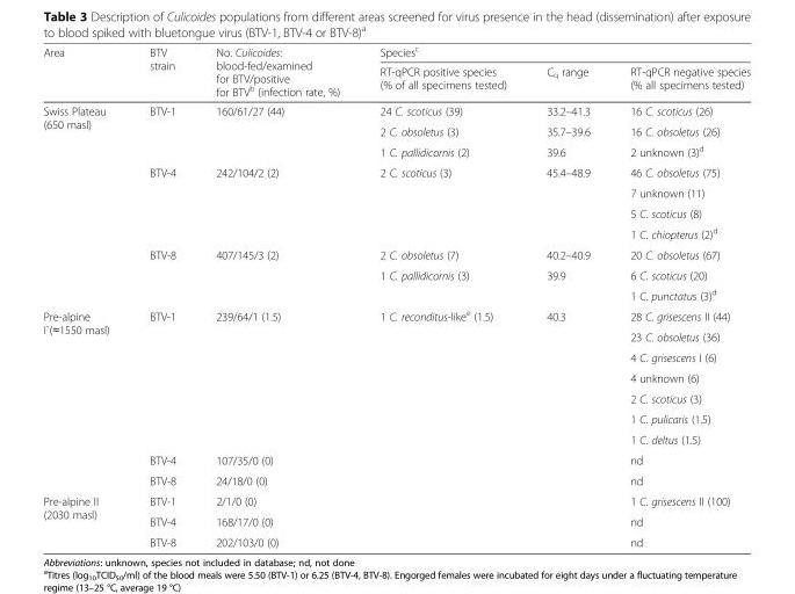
<table><thead><tr><td rowspan="2">Area</td><td rowspan="2">BTV strain</td><td rowspan="2">No. Culicoides: blood-fed/examined for BTV/positive for BTV<sup>b</sup> (infection rate, %)</td><td colspan="3">Species<sup>c</sup></td></tr><tr><td>RT-qPCR positive species (% of all specimens tested)</td><td>C<sub>q</sub> range</td><td>RT-qPCR negative species (% all specimens tested)</td></tr></thead><tbody><tr><td rowspan="10">Swiss Plateau (650 masl)</td><td rowspan="3">BTV-1</td><td rowspan="3">160/61/27 (44)</td><td>24 C. scoticus (39)</td><td>33.2–41.3</td><td>16 C. scoticus (26)</td></tr><tr><td>2 C. obsoletus (3)</td><td>35.7–39.6</td><td>16 C. obsoletus (26)</td></tr><tr><td>1 C. pallidicornis (2)</td><td>39.6</td><td>2 unknown (3)<sup>d</sup></td></tr><tr><td rowspan="4">BTV-4</td><td rowspan="4">242/104/2 (2)</td><td>2 C. scoticus (3)</td><td>45.4–48.9</td><td>46 C. obsoletus (75)</td></tr><tr><td></td><td></td><td>7 unknown (11)</td></tr><tr><td></td><td></td><td>5 C. scoticus (8)</td></tr><tr><td></td><td></td><td>1 C. chiopterus (2)<sup>d</sup></td></tr><tr><td rowspan="3">BTV-8</td><td rowspan="3">407/145/3 (2)</td><td>2 C. obsoletus (7)</td><td>40.2–40.9</td><td>20 C. obsoletus (67)</td></tr><tr><td>1 C. pallidicornis (3)</td><td>39.9</td><td>6 C. scoticus (20)</td></tr><tr><td></td><td></td><td>1 C. punctatus (3)<sup>d</sup></td></tr><tr><td rowspan="9">Pre-alpine I`(≈1550 masl)</td><td rowspan="7">BTV-1</td><td rowspan="7">239/64/1 (1.5)</td><td>1 C. reconditus-like<sup>e</sup> (1.5)</td><td>40.3</td><td>28 C. grisescens II (44)</td></tr><tr><td></td><td></td><td>23 C. obsoletus (36)</td></tr><tr><td></td><td></td><td>4 C. grisescens I (6)</td></tr><tr><td></td><td></td><td>4 unknown (6)</td></tr><tr><td></td><td></td><td>2 C. scoticus (3)</td></tr><tr><td></td><td></td><td>1 C. pulicaris (1.5)</td></tr><tr><td></td><td></td><td>1 C. deltus (1.5)</td></tr><tr><td>BTV-4</td><td>107/35/0 (0)</td><td></td><td></td><td>nd</td></tr><tr><td>BTV-8</td><td>24/18/0 (0)</td><td></td><td></td><td>nd</td></tr><tr><td rowspan="3">Pre-alpine II (2030 masl)</td><td>BTV-1</td><td>2/1/0 (0)</td><td></td><td></td><td>1 C. grisescens II (100)</td></tr><tr><td>BTV-4</td><td>168/17/0 (0)</td><td></td><td></td><td>nd</td></tr><tr><td>BTV-8</td><td>202/103/0 (0)</td><td></td><td></td><td>nd</td></tr></tbody></table>